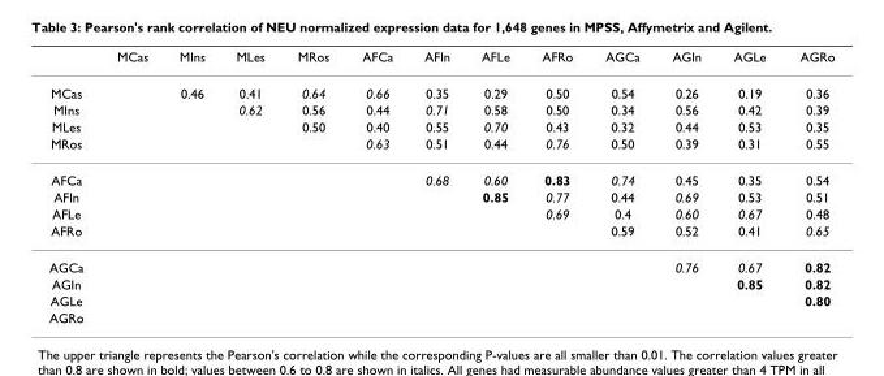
<table><thead><tr><td></td><td>MCas</td><td>MIns</td><td>MLes</td><td>MRos</td><td>AFCa</td><td>AFIn</td><td>AFLe</td><td>AFRo</td><td>AGCa</td><td>AGIn</td><td>AGLe</td><td>AGRo</td></tr></thead><tbody><tr><td>MCas</td><td></td><td>0.46</td><td>0.41</td><td>0.64</td><td>0.66</td><td>0.35</td><td>0.29</td><td>0.50</td><td>0.54</td><td>0.26</td><td>0.19</td><td>0.36</td></tr><tr><td>MIns</td><td></td><td></td><td>0.62</td><td>0.56</td><td>0.44</td><td>0.71</td><td>0.58</td><td>0.50</td><td>0.34</td><td>0.56</td><td>0.42</td><td>0.39</td></tr><tr><td>MLes</td><td></td><td></td><td></td><td>0.50</td><td>0.40</td><td>0.55</td><td>0.70</td><td>0.43</td><td>0.32</td><td>0.44</td><td>0.53</td><td>0.35</td></tr><tr><td>MRos</td><td></td><td></td><td></td><td></td><td>0.63</td><td>0.51</td><td>0.44</td><td>0.76</td><td>0.50</td><td>0.39</td><td>0.31</td><td>0.55</td></tr><tr><td>AFCa</td><td></td><td></td><td></td><td></td><td></td><td>0.68</td><td>0.60</td><td>0.83</td><td>0.74</td><td>0.45</td><td>0.35</td><td>0.54</td></tr><tr><td>AFIn</td><td></td><td></td><td></td><td></td><td></td><td></td><td>0.85</td><td>0.77</td><td>0.44</td><td>0.69</td><td>0.53</td><td>0.51</td></tr><tr><td>AFLe</td><td></td><td></td><td></td><td></td><td></td><td></td><td></td><td>0.69</td><td>0.4</td><td>0.60</td><td>0.67</td><td>0.48</td></tr><tr><td>AFRo</td><td></td><td></td><td></td><td></td><td></td><td></td><td></td><td></td><td>0.59</td><td>0.52</td><td>0.41</td><td>0.65</td></tr><tr><td>AGCa</td><td></td><td></td><td></td><td></td><td></td><td></td><td></td><td></td><td></td><td>0.76</td><td>0.67</td><td>0.82</td></tr><tr><td>AGIn</td><td></td><td></td><td></td><td></td><td></td><td></td><td></td><td></td><td></td><td></td><td>0.85</td><td>0.82</td></tr><tr><td>AGLe</td><td></td><td></td><td></td><td></td><td></td><td></td><td></td><td></td><td></td><td></td><td></td><td>0.80</td></tr><tr><td>AGRo</td><td></td><td></td><td></td><td></td><td></td><td></td><td></td><td></td><td></td><td></td><td></td><td></td></tr></tbody></table>